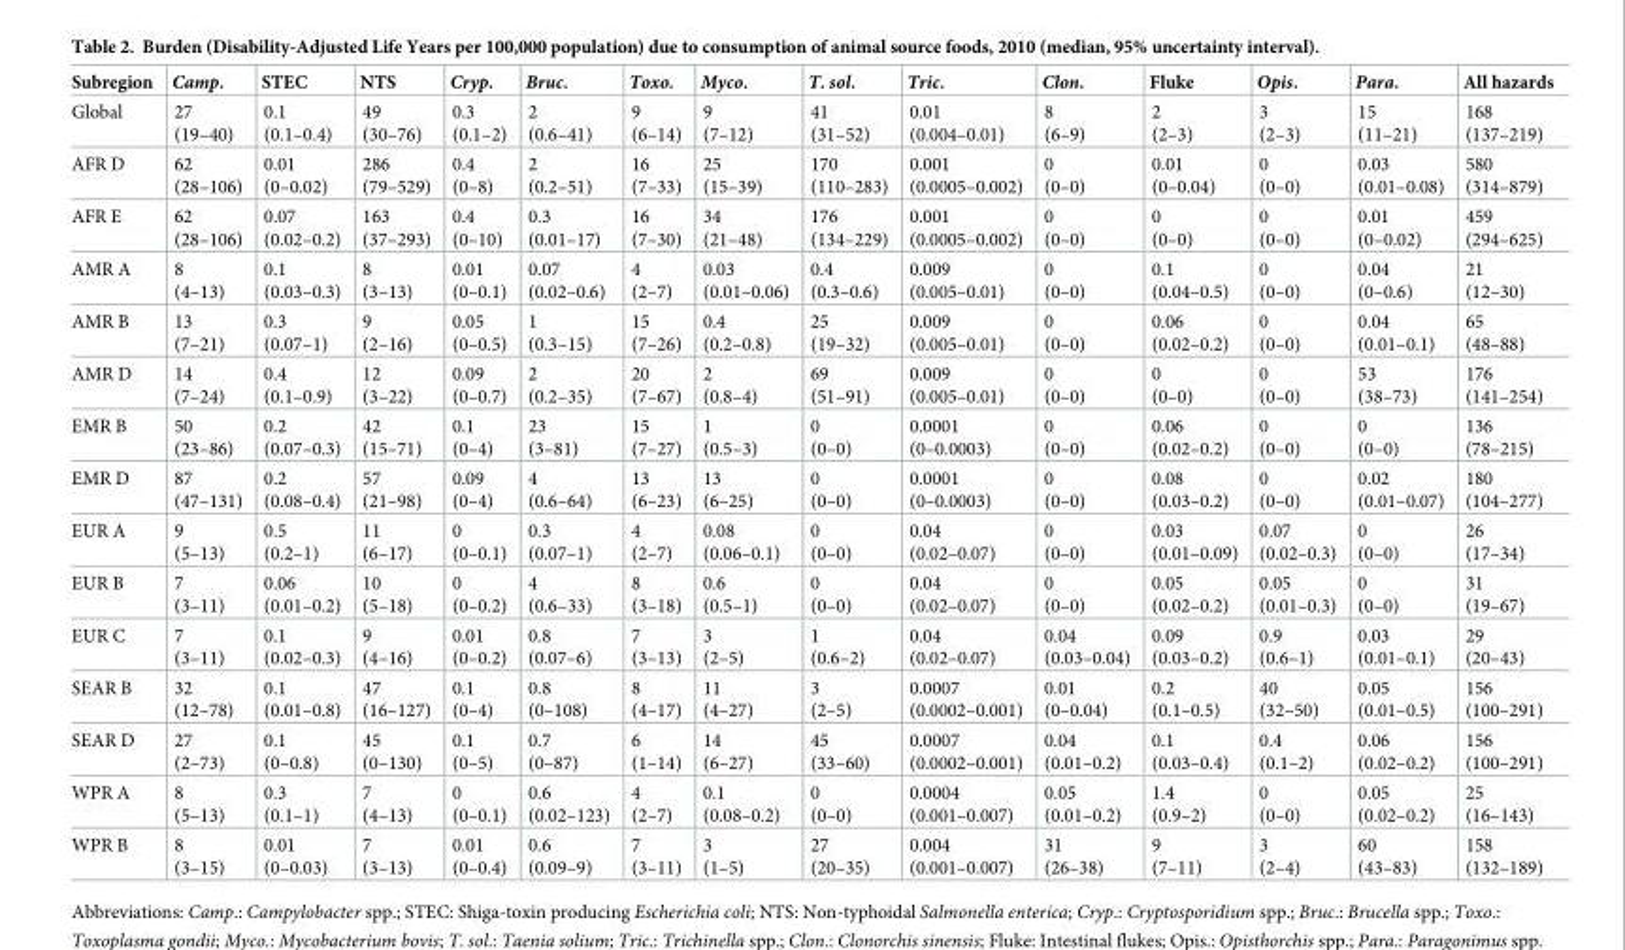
<table><thead><tr><td>Subregion</td><td>Camp.</td><td>STEC</td><td>NTS</td><td>Cryp.</td><td>Bruc.</td><td>Toxo.</td><td>Myco.</td><td>T. sol.</td><td>Tric.</td><td>Clon.</td><td>Fluke</td><td>Opis.</td><td>Para.</td><td>All hazards</td></tr></thead><tbody><tr><td>Global</td><td>27 (19–40)</td><td>0.1 (0.1–0.4)</td><td>49 (30–76)</td><td>0.3 (0.1–2)</td><td>2 (0.6–41)</td><td>9 (6–14)</td><td>9 (7–12)</td><td>41 (31–52)</td><td>0.01 (0.004–0.01)</td><td>8 (6–9)</td><td>2 (2–3)</td><td>3 (2–3)</td><td>15 (11–21)</td><td>168 (137–219)</td></tr><tr><td>AFR D</td><td>62 (28–106)</td><td>0.01 (0–0.02)</td><td>286 (79–529)</td><td>0.4 (0–8)</td><td>2 (0.2–51)</td><td>16 (7–33)</td><td>25 (15–39)</td><td>170 (110–283)</td><td>0.001 (0.0005–0.002)</td><td>0 (0–0)</td><td>0.01 (0–0.04)</td><td>0 (0–0)</td><td>0.03 (0.01–0.08)</td><td>580 (314–879)</td></tr><tr><td>AFR E</td><td>62 (28–106)</td><td>0.07 (0.02–0.2)</td><td>163 (37–293)</td><td>0.4 (0–10)</td><td>0.3 (0.01–17)</td><td>16 (7–30)</td><td>34 (21–48)</td><td>176 (134–229)</td><td>0.001 (0.0005–0.002)</td><td>0 (0–0)</td><td>0 (0–0)</td><td>0 (0–0)</td><td>0.01 (0–0.02)</td><td>459 (294–625)</td></tr><tr><td>AMR A</td><td>8 (4–13)</td><td>0.1 (0.03–0.3)</td><td>8 (3–13)</td><td>0.01 (0–0.1)</td><td>0.07 (0.02–0.6)</td><td>4 (2–7)</td><td>0.03 (0.01–0.06)</td><td>0.4 (0.3–0.6)</td><td>0.009 (0.005–0.01)</td><td>0 (0–0)</td><td>0.1 (0.04–0.5)</td><td>0 (0–0)</td><td>0.04 (0–0.6)</td><td>21 (12–30)</td></tr><tr><td>AMR B</td><td>13 (7–21)</td><td>0.3 (0.07–1)</td><td>9 (2–16)</td><td>0.05 (0–0.5)</td><td>1 (0.3–15)</td><td>15 (7–26)</td><td>0.4 (0.2–0.8)</td><td>25 (19–32)</td><td>0.009 (0.005–0.01)</td><td>0 (0–0)</td><td>0.06 (0.02–0.2)</td><td>0 (0–0)</td><td>0.04 (0.01–0.1)</td><td>65 (48–88)</td></tr><tr><td>AMR D</td><td>14 (7–24)</td><td>0.4 (0.1–0.9)</td><td>12 (3–22)</td><td>0.09 (0–0.7)</td><td>2 (0.2–35)</td><td>20 (7–67)</td><td>2 (0.8–4)</td><td>69 (51–91)</td><td>0.009 (0.005–0.01)</td><td>0 (0–0)</td><td>0 (0–0)</td><td>0 (0–0)</td><td>53 (38–73)</td><td>176 (141–254)</td></tr><tr><td>EMR B</td><td>50 (23–86)</td><td>0.2 (0.07–0.3)</td><td>42 (15–71)</td><td>0.1 (0–4)</td><td>23 (3–81)</td><td>15 (7–27)</td><td>1 (0.5–3)</td><td>0 (0–0)</td><td>0.0001 (0–0.0003)</td><td>0 (0–0)</td><td>0.06 (0.02–0.2)</td><td>0 (0–0)</td><td>0 (0–0)</td><td>136 (78–215)</td></tr><tr><td>EMR D</td><td>87 (47–131)</td><td>0.2 (0.08–0.4)</td><td>57 (21–98)</td><td>0.09 (0–4)</td><td>4 (0.6–64)</td><td>13 (6–23)</td><td>13 (6–25)</td><td>0 (0–0)</td><td>0.0001 (0–0.0003)</td><td>0 (0–0)</td><td>0.08 (0.03–0.2)</td><td>0 (0–0)</td><td>0.02 (0.01–0.07)</td><td>180 (104–277)</td></tr><tr><td>EUR A</td><td>9 (5–13)</td><td>0.5 (0.2–1)</td><td>11 (6–17)</td><td>0 (0–0.1)</td><td>0.3 (0.07–1)</td><td>4 (2–7)</td><td>0.08 (0.06–0.1)</td><td>0 (0–0)</td><td>0.04 (0.02–0.07)</td><td>0 (0–0)</td><td>0.03 (0.01–0.09)</td><td>0.07 (0.02–0.3)</td><td>0 (0–0)</td><td>26 (17–34)</td></tr><tr><td>EUR B</td><td>7 (3–11)</td><td>0.06 (0.01–0.2)</td><td>10 (5–18)</td><td>0 (0–0.2)</td><td>4 (0.6–33)</td><td>8 (3–18)</td><td>0.6 (0.5–1)</td><td>0 (0–0)</td><td>0.04 (0.02–0.07)</td><td>0 (0–0)</td><td>0.05 (0.02–0.2)</td><td>0.05 (0.01–0.3)</td><td>0 (0–0)</td><td>31 (19–67)</td></tr><tr><td>EUR C</td><td>7 (3–11)</td><td>0.1 (0.02–0.3)</td><td>9 (4–16)</td><td>0.01 (0–0.2)</td><td>0.8 (0.07–6)</td><td>7 (3–13)</td><td>3 (2–5)</td><td>1 (0.6–2)</td><td>0.04 (0.02–0.07)</td><td>0.04 (0.03–0.04)</td><td>0.09 (0.03–0.2)</td><td>0.9 (0.6–1)</td><td>0.03 (0.01–0.1)</td><td>29 (20–43)</td></tr><tr><td>SEAR B</td><td>32 (12–78)</td><td>0.1 (0.01–0.8)</td><td>47 (16–127)</td><td>0.1 (0–4)</td><td>0.8 (0–108)</td><td>8 (4–17)</td><td>11 (4–27)</td><td>3 (2–5)</td><td>0.0007 (0.0002–0.001)</td><td>0.01 (0–0.04)</td><td>0.2 (0.1–0.5)</td><td>40 (32–50)</td><td>0.05 (0.01–0.5)</td><td>156 (100–291)</td></tr><tr><td>SEAR D</td><td>27 (2–73)</td><td>0.1 (0–0.8)</td><td>45 (0–130)</td><td>0.1 (0–5)</td><td>0.7 (0–87)</td><td>6 (1–14)</td><td>14 (6–27)</td><td>45 (33–60)</td><td>0.0007 (0.0002–0.001)</td><td>0.04 (0.01–0.2)</td><td>0.1 (0.03–0.4)</td><td>0.4 (0.1–2)</td><td>0.06 (0.02–0.2)</td><td>156 (100–291)</td></tr><tr><td>WPR A</td><td>8 (5–13)</td><td>0.3 (0.1–1)</td><td>7 (4–13)</td><td>0 (0–0.1)</td><td>0.6 (0.02–123)</td><td>4 (2–7)</td><td>0.1 (0.08–0.2)</td><td>0 (0–0)</td><td>0.0004 (0.001–0.007)</td><td>0.05 (0.01–0.2)</td><td>1.4 (0.9–2)</td><td>0 (0–0)</td><td>0.05 (0.02–0.2)</td><td>25 (16–143)</td></tr><tr><td>WPR B</td><td>8 (3–15)</td><td>0.01 (0–0.03)</td><td>7 (3–13)</td><td>0.01 (0–0.4)</td><td>0.6 (0.09–9)</td><td>7 (3–11)</td><td>3 (1–5)</td><td>27 (20–35)</td><td>0.004 (0.001–0.007)</td><td>31 (26–38)</td><td>9 (7–11)</td><td>3 (2–4)</td><td>60 (43–83)</td><td>158 (132–189)</td></tr></tbody></table>